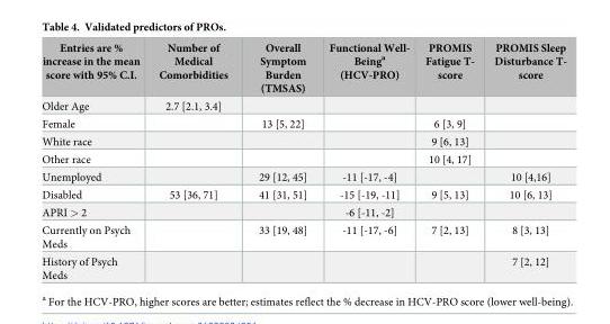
<table><thead><tr><td>Entries are % increase in the mean score with 95% C.I.</td><td>Number of Medical Comorbidities</td><td>Overall Symptom Burden (TMSAS)</td><td>Functional Well- Being<sup>a</sup> (HCV-PRO)</td><td>PROMIS Fatigue T- score</td><td>PROMIS Sleep Disturbance T- score</td></tr></thead><tbody><tr><td>Older Age</td><td>2.7 [2.1, 3.4]</td><td></td><td></td><td></td><td></td></tr><tr><td>Female</td><td></td><td>13 [5, 22]</td><td></td><td>6 [3, 9]</td><td></td></tr><tr><td>White race</td><td></td><td></td><td></td><td>9 [6, 13]</td><td></td></tr><tr><td>Other race</td><td></td><td></td><td></td><td>10 [4, 17]</td><td></td></tr><tr><td>Unemployed</td><td></td><td>29 [12, 45]</td><td>-11 [-17, -4]</td><td></td><td>10 [4,16]</td></tr><tr><td>Disabled</td><td>53 [36, 71]</td><td>41 [31, 51]</td><td>-15 [-19, -11]</td><td>9 [5, 13]</td><td>10 [6, 13]</td></tr><tr><td>APRI &gt; 2</td><td></td><td></td><td>-6 [-11, -2]</td><td></td><td></td></tr><tr><td>Currently on Psych Meds</td><td></td><td>33 [19, 48]</td><td>-11 [-17, -6]</td><td>7 [2, 13]</td><td>8 [3, 13]</td></tr><tr><td>History of Psych Meds</td><td></td><td></td><td></td><td></td><td>7 [2, 12]</td></tr></tbody></table>